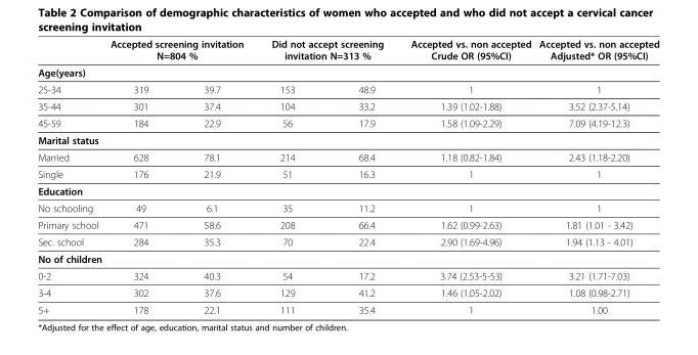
<table><thead><tr><td rowspan="2">Age(years)</td><td colspan="2">Accepted screening invitation N=804 %</td><td colspan="2">Did not accept screening invitation N=313 %</td><td rowspan="2">Accepted vs. non accepted Crude OR (95%CI)</td><td rowspan="2">Accepted vs. non accepted Adjusted* OR (95%CI)</td></tr><tr><td></td><td></td><td></td><td></td></tr></thead><tbody><tr><td>25-34</td><td>319</td><td>39.7</td><td>153</td><td>48.9</td><td>1</td><td>1</td></tr><tr><td>35-44</td><td>301</td><td>37.4</td><td>104</td><td>33.2</td><td>1.39 (1.02-1.88)</td><td>3.52 (2.37-5.14)</td></tr><tr><td>45-59</td><td>184</td><td>22.9</td><td>56</td><td>17.9</td><td>1.58 (1.09-2.29)</td><td>7.09 (4.19-12.3)</td></tr><tr><td colspan="7">Marital status</td></tr><tr><td>Married</td><td>628</td><td>78.1</td><td>214</td><td>68.4</td><td>1.18 (0.82-1.84)</td><td>2.43 (1.18-2.20)</td></tr><tr><td>Single</td><td>176</td><td>21.9</td><td>51</td><td>16.3</td><td>1</td><td>1</td></tr><tr><td colspan="7">Education</td></tr><tr><td>No schooling</td><td>49</td><td>6.1</td><td>35</td><td>11.2</td><td>1</td><td>1</td></tr><tr><td>Primary school</td><td>471</td><td>58.6</td><td>208</td><td>66.4</td><td>1.62 (0.99-2.63)</td><td>1.81 (1.01 - 3.42)</td></tr><tr><td>Sec. school</td><td>284</td><td>35.3</td><td>70</td><td>22.4</td><td>2.90 (1.69-4.96)</td><td>1.94 (1.13 - 4.01)</td></tr><tr><td colspan="7">No of children</td></tr><tr><td>0-2</td><td>324</td><td>40.3</td><td>54</td><td>17.2</td><td>3.74 (2.53-5-53)</td><td>3.21 (1.71-7.03)</td></tr><tr><td>3-4</td><td>302</td><td>37.6</td><td>129</td><td>41.2</td><td>1.46 (1.05-2.02)</td><td>1.08 (0.98-2.71)</td></tr><tr><td>5+</td><td>178</td><td>22.1</td><td>111</td><td>35.4</td><td>1</td><td>1.00</td></tr></tbody></table>